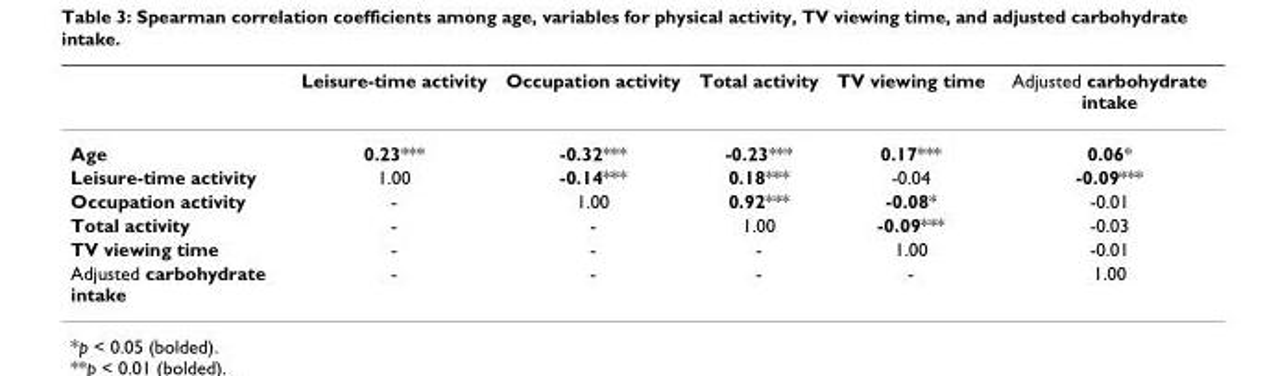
<table><thead><tr><td></td><td>Leisure-time activity</td><td>Occupation activity</td><td>Total activity</td><td>TV viewing time</td><td>Adjusted carbohydrate intake</td></tr></thead><tbody><tr><td>Age</td><td>0.23***</td><td>-0.32***</td><td>-0.23***</td><td>0.17***</td><td>0.06*</td></tr><tr><td>Leisure-time activity</td><td>1.00</td><td>-0.14***</td><td>0.18***</td><td>-0.04</td><td>-0.09***</td></tr><tr><td>Occupation activity</td><td>-</td><td>1.00</td><td>0.92***</td><td>-0.08*</td><td>-0.01</td></tr><tr><td>Total activity</td><td>-</td><td>-</td><td>1.00</td><td>-0.09***</td><td>-0.03</td></tr><tr><td>TV viewing time</td><td>-</td><td>-</td><td>-</td><td>1.00</td><td>-0.01</td></tr><tr><td>Adjusted carbohydrate intake</td><td>-</td><td>-</td><td>-</td><td>-</td><td>1.00</td></tr></tbody></table>